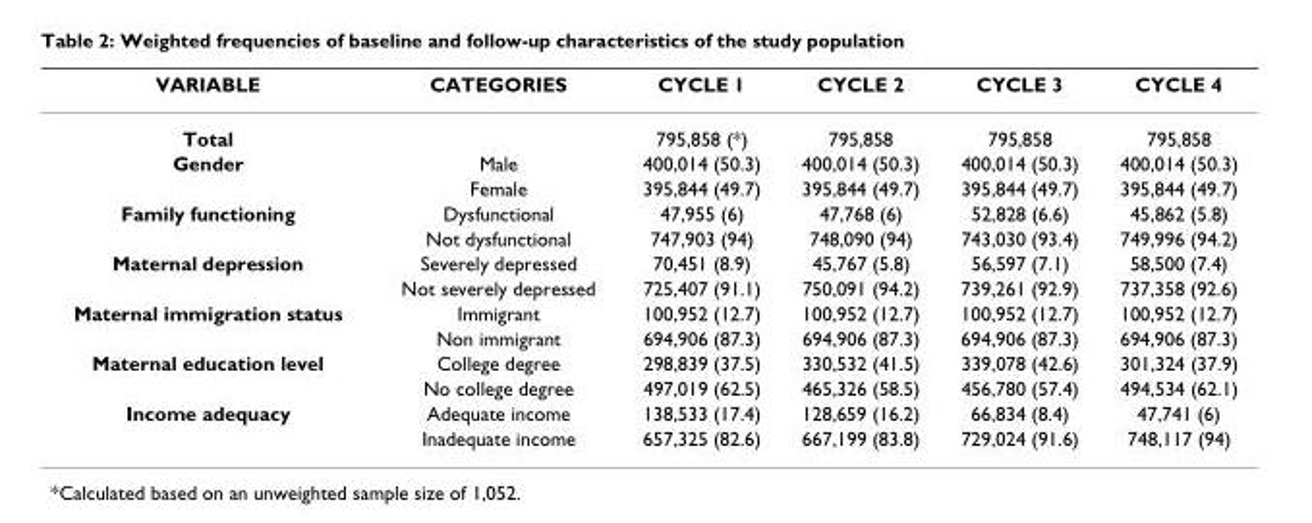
<table><thead><tr><td>VARIABLE</td><td>CATEGORIES</td><td>CYCLE 1</td><td>CYCLE 2</td><td>CYCLE 3</td><td>CYCLE 4</td></tr></thead><tbody><tr><td>Total</td><td></td><td>795,858 (*)</td><td>795,858</td><td>795,858</td><td>795,858</td></tr><tr><td rowspan="2">Gender</td><td>Male</td><td>400,014 (50.3)</td><td>400,014 (50.3)</td><td>400,014 (50.3)</td><td>400,014 (50.3)</td></tr><tr><td>Female</td><td>395,844 (49.7)</td><td>395,844 (49.7)</td><td>395,844 (49.7)</td><td>395,844 (49.7)</td></tr><tr><td rowspan="2">Family functioning</td><td>Dysfunctional</td><td>47,955 (6)</td><td>47,768 (6)</td><td>52,828 (6.6)</td><td>45,862 (5.8)</td></tr><tr><td>Not dysfunctional</td><td>747,903 (94)</td><td>748,090 (94)</td><td>743,030 (93.4)</td><td>749,996 (94.2)</td></tr><tr><td rowspan="2">Maternal depression</td><td>Severely depressed</td><td>70,451 (8.9)</td><td>45,767 (5.8)</td><td>56,597 (7.1)</td><td>58,500 (7.4)</td></tr><tr><td>Not severely depressed</td><td>725,407 (91.1)</td><td>750,091 (94.2)</td><td>739,261 (92.9)</td><td>737,358 (92.6)</td></tr><tr><td rowspan="2">Maternal immigration status</td><td>Immigrant</td><td>100,952 (12.7)</td><td>100,952 (12.7)</td><td>100,952 (12.7)</td><td>100,952 (12.7)</td></tr><tr><td>Non immigrant</td><td>694,906 (87.3)</td><td>694,906 (87.3)</td><td>694,906 (87.3)</td><td>694,906 (87.3)</td></tr><tr><td rowspan="2">Maternal education level</td><td>College degree</td><td>298,839 (37.5)</td><td>330,532 (41.5)</td><td>339,078 (42.6)</td><td>301,324 (37.9)</td></tr><tr><td>No college degree</td><td>497,019 (62.5)</td><td>465,326 (58.5)</td><td>456,780 (57.4)</td><td>494,534 (62.1)</td></tr><tr><td rowspan="2">Income adequacy</td><td>Adequate income</td><td>138,533 (17.4)</td><td>128,659 (16.2)</td><td>66,834 (8.4)</td><td>47,741 (6)</td></tr><tr><td>Inadequate income</td><td>657,325 (82.6)</td><td>667,199 (83.8)</td><td>729,024 (91.6)</td><td>748,117 (94)</td></tr></tbody></table>